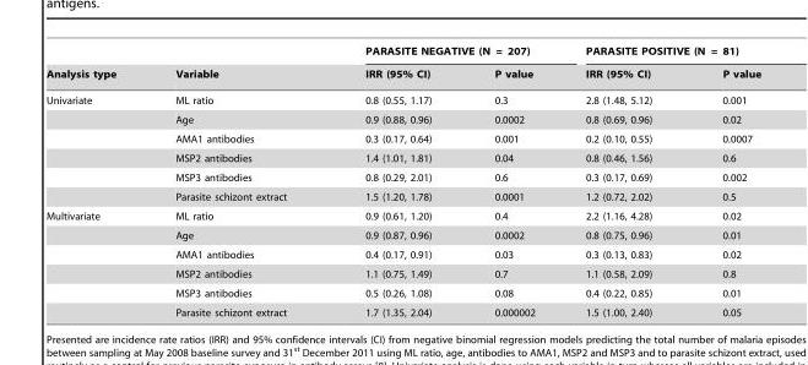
<table><thead><tr><td rowspan="2">Analysis type</td><td rowspan="2">Variable</td><td colspan="2">PARASITE NEGATIVE (N = 207)</td><td colspan="2">PARASITE POSITIVE (N = 81)</td></tr><tr><td>IRR (95% CI)</td><td>P value</td><td>IRR (95% CI)</td><td>P value</td></tr></thead><tbody><tr><td rowspan="6">Univariate</td><td>ML ratio</td><td>0.8 (0.55, 1.17)</td><td>0.3</td><td>2.8 (1.48, 5.12)</td><td>0.001</td></tr><tr><td>Age</td><td>0.9 (0.88, 0.96)</td><td>0.0002</td><td>0.8 (0.69, 0.96)</td><td>0.02</td></tr><tr><td>AMA1 antibodies</td><td>0.3 (0.17, 0.64)</td><td>0.001</td><td>0.2 (0.10, 0.55)</td><td>0.0007</td></tr><tr><td>MSP2 antibodies</td><td>1.4 (1.01, 1.81)</td><td>0.04</td><td>0.8 (0.46, 1.56)</td><td>0.6</td></tr><tr><td>MSP3 antibodies</td><td>0.8 (0.29, 2.01)</td><td>0.6</td><td>0.3 (0.17, 0.69)</td><td>0.002</td></tr><tr><td>Parasite schizont extract</td><td>1.5 (1.20, 1.78)</td><td>0.0001</td><td>1.2 (0.72, 2.02)</td><td>0.5</td></tr><tr><td rowspan="6">Multivariate</td><td>ML ratio</td><td>0.9 (0.61, 1.20)</td><td>0.4</td><td>2.2 (1.16, 4.28)</td><td>0.02</td></tr><tr><td>Age</td><td>0.9 (0.87, 0.96)</td><td>0.0002</td><td>0.8 (0.75, 0.96)</td><td>0.01</td></tr><tr><td>AMA1 antibodies</td><td>0.4 (0.17, 0.91)</td><td>0.03</td><td>0.3 (0.13, 0.83)</td><td>0.02</td></tr><tr><td>MSP2 antibodies</td><td>1.1 (0.75, 1.49)</td><td>0.7</td><td>1.1 (0.58, 2.09)</td><td>0.8</td></tr><tr><td>MSP3 antibodies</td><td>0.5 (0.26, 1.08)</td><td>0.08</td><td>0.4 (0.22, 0.85)</td><td>0.01</td></tr><tr><td>Parasite schizont extract</td><td>1.7 (1.35, 2.04)</td><td>0.000002</td><td>1.5 (1.00, 2.40)</td><td>0.05</td></tr></tbody></table>